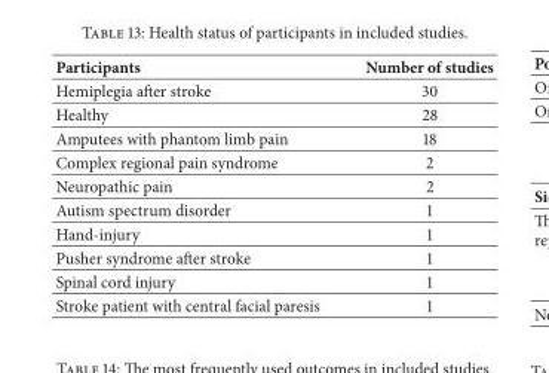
<table><thead><tr><td>Participants</td><td>Number of studies</td></tr></thead><tbody><tr><td>Hemiplegia after stroke</td><td>30</td></tr><tr><td>Healthy</td><td>28</td></tr><tr><td>Amputees with phantom limb pain</td><td>18</td></tr><tr><td>Complex regional pain syndrome</td><td>2</td></tr><tr><td>Neuropathic pain</td><td>2</td></tr><tr><td>Autism spectrum disorder</td><td>1</td></tr><tr><td>Hand-injury</td><td>1</td></tr><tr><td>Pusher syndrome after stroke</td><td>1</td></tr><tr><td>Spinal cord injury</td><td>1</td></tr><tr><td>Stroke patient with central facial paresis</td><td>1</td></tr></tbody></table>